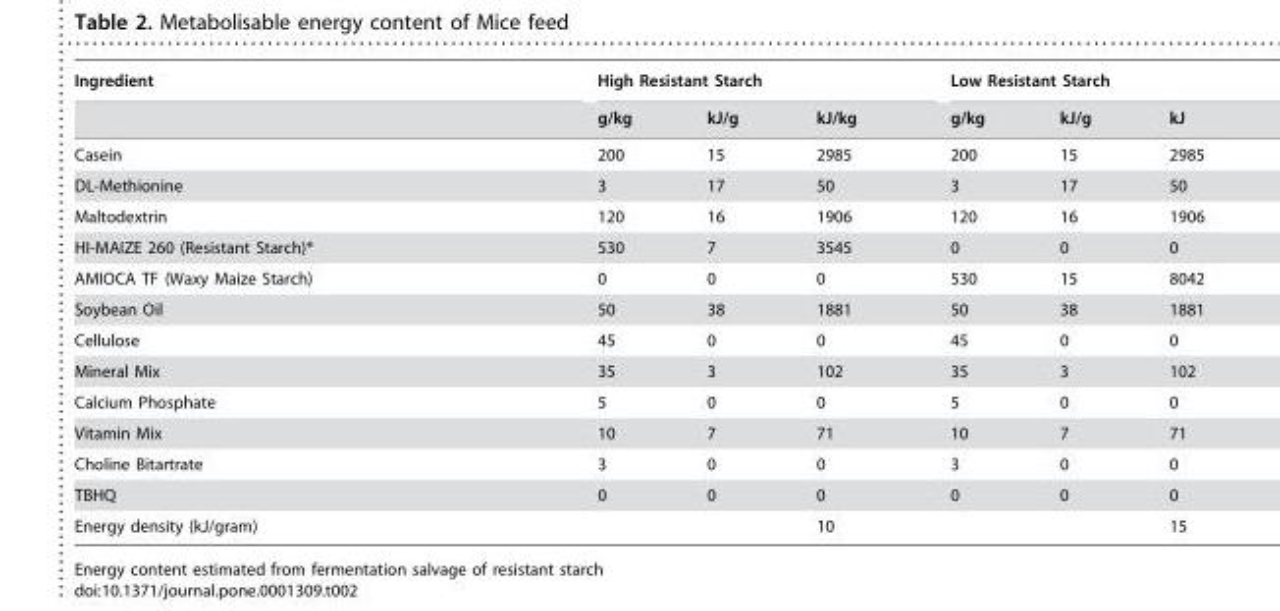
<table><thead><tr><td rowspan="2">Ingredient</td><td colspan="3">High Resistant Starch</td><td colspan="3">Low Resistant Starch</td></tr><tr><td>g/kg</td><td>kJ/g</td><td>kJ/kg</td><td>g/kg</td><td>kJ/g</td><td>kJ</td></tr></thead><tbody><tr><td>Casein</td><td>200</td><td>15</td><td>2985</td><td>200</td><td>15</td><td>2985</td></tr><tr><td>DL-Methionine</td><td>3</td><td>17</td><td>50</td><td>3</td><td>17</td><td>50</td></tr><tr><td>Maltodextrin</td><td>120</td><td>16</td><td>1906</td><td>120</td><td>16</td><td>1906</td></tr><tr><td>HI-MAIZE 260 (Resistant Starch)*</td><td>530</td><td>7</td><td>3545</td><td>0</td><td>0</td><td>0</td></tr><tr><td>AMIOCA TF (Waxy Maize Starch)</td><td>0</td><td>0</td><td>0</td><td>530</td><td>15</td><td>8042</td></tr><tr><td>Soybean Oil</td><td>50</td><td>38</td><td>1881</td><td>50</td><td>38</td><td>1881</td></tr><tr><td>Cellulose</td><td>45</td><td>0</td><td>0</td><td>45</td><td>0</td><td>0</td></tr><tr><td>Mineral Mix</td><td>35</td><td>3</td><td>102</td><td>35</td><td>3</td><td>102</td></tr><tr><td>Calcium Phosphate</td><td>5</td><td>0</td><td>0</td><td>5</td><td>0</td><td>0</td></tr><tr><td>Vitamin Mix</td><td>10</td><td>7</td><td>71</td><td>10</td><td>7</td><td>71</td></tr><tr><td>Choline Bitartrate</td><td>3</td><td>0</td><td>0</td><td>3</td><td>0</td><td>0</td></tr><tr><td>TBHQ</td><td>0</td><td>0</td><td>0</td><td>0</td><td>0</td><td>0</td></tr><tr><td>Energy density (kJ/gram)</td><td></td><td></td><td>10</td><td></td><td></td><td>15</td></tr></tbody></table>